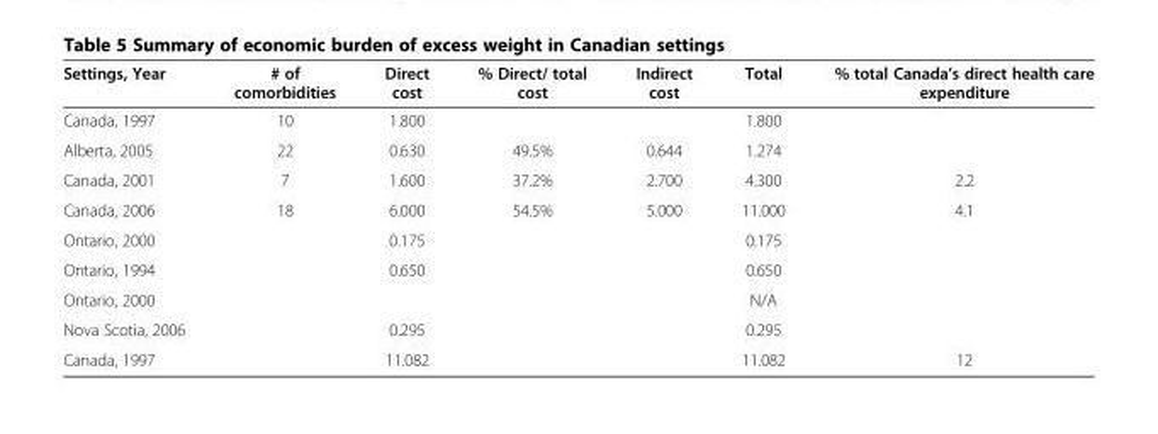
<table><thead><tr><td>Settings, Year</td><td># of comorbidities</td><td>Direct cost</td><td>% Direct/ total cost</td><td>Indirect cost</td><td>Total</td><td>% total Canada’s direct health care expenditure</td></tr></thead><tbody><tr><td>Canada, 1997</td><td>10</td><td>1.800</td><td></td><td></td><td>1.800</td><td></td></tr><tr><td>Alberta, 2005</td><td>22</td><td>0.630</td><td>49.5%</td><td>0.644</td><td>1.274</td><td></td></tr><tr><td>Canada, 2001</td><td>7</td><td>1.600</td><td>37.2%</td><td>2.700</td><td>4.300</td><td>2.2</td></tr><tr><td>Canada, 2006</td><td>18</td><td>6.000</td><td>54.5%</td><td>5.000</td><td>11.000</td><td>4.1</td></tr><tr><td>Ontario, 2000</td><td></td><td>0.175</td><td></td><td></td><td>0.175</td><td></td></tr><tr><td>Ontario, 1994</td><td></td><td>0.650</td><td></td><td></td><td>0.650</td><td></td></tr><tr><td>Ontario, 2000</td><td></td><td></td><td></td><td></td><td>N/A</td><td></td></tr><tr><td>Nova Scotia, 2006</td><td></td><td>0.295</td><td></td><td></td><td>0.295</td><td></td></tr><tr><td>Canada, 1997</td><td></td><td>11.082</td><td></td><td></td><td>11.082</td><td>12</td></tr></tbody></table>